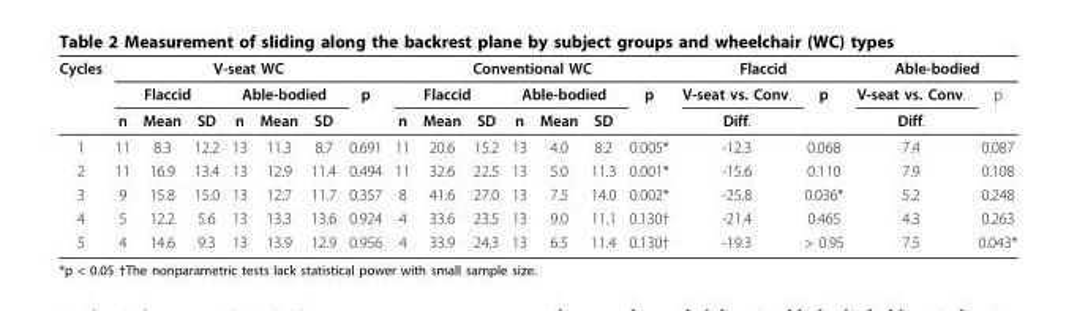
<table><thead><tr><td rowspan="3">Cycles</td><td colspan="7">V-seat WC</td><td colspan="7">Conventional WC</td><td colspan="2">Flaccid</td><td colspan="2">Able-bodied</td></tr><tr><td colspan="3">Flaccid</td><td colspan="3">Able-bodied</td><td rowspan="2">p</td><td colspan="3">Flaccid</td><td colspan="3">Able-bodied</td><td rowspan="2">p</td><td rowspan="2">V-seat vs. Conv. Diff.</td><td rowspan="2">p</td><td rowspan="2">V-seat vs. Conv. Diff.</td><td rowspan="2">p</td></tr><tr><td>n</td><td>Mean</td><td>SD</td><td>n</td><td>Mean</td><td>SD</td><td>n</td><td>Mean</td><td>SD</td><td>n</td><td>Mean</td><td>SD</td></tr></thead><tbody><tr><td>1</td><td>11</td><td>8.3</td><td>12.2</td><td>13</td><td>11.3</td><td>8.7</td><td>0.691</td><td>11</td><td>20.6</td><td>15.2</td><td>13</td><td>4.0</td><td>8.2</td><td>0.005*</td><td>-12.3</td><td>0.068</td><td>7.4</td><td>0.087</td></tr><tr><td>2</td><td>11</td><td>16.9</td><td>13.4</td><td>13</td><td>12.9</td><td>11.4</td><td>0.494</td><td>11</td><td>32.6</td><td>22.5</td><td>13</td><td>5.0</td><td>11.3</td><td>0.001*</td><td>-15.6</td><td>0.110</td><td>7.9</td><td>0.108</td></tr><tr><td>3</td><td>9</td><td>15.8</td><td>15.0</td><td>13</td><td>12.7</td><td>11.7</td><td>0.357</td><td>8</td><td>41.6</td><td>27.0</td><td>13</td><td>7.5</td><td>14.0</td><td>0.002*</td><td>-25.8</td><td>0.036*</td><td>5.2</td><td>0.248</td></tr><tr><td>4</td><td>5</td><td>12.2</td><td>5.6</td><td>13</td><td>13.3</td><td>13.6</td><td>0.924</td><td>4</td><td>33.6</td><td>23.5</td><td>13</td><td>9.0</td><td>11.1</td><td>0.130†</td><td>-21.4</td><td>0.465</td><td>4.3</td><td>0.263</td></tr><tr><td>5</td><td>4</td><td>14.6</td><td>9.3</td><td>13</td><td>13.9</td><td>12.9</td><td>0.956</td><td>4</td><td>33.9</td><td>24.3</td><td>13</td><td>6.5</td><td>11.4</td><td>0.130†</td><td>-19.3</td><td>&gt; 0.95</td><td>7.5</td><td>0.043*</td></tr></tbody></table>